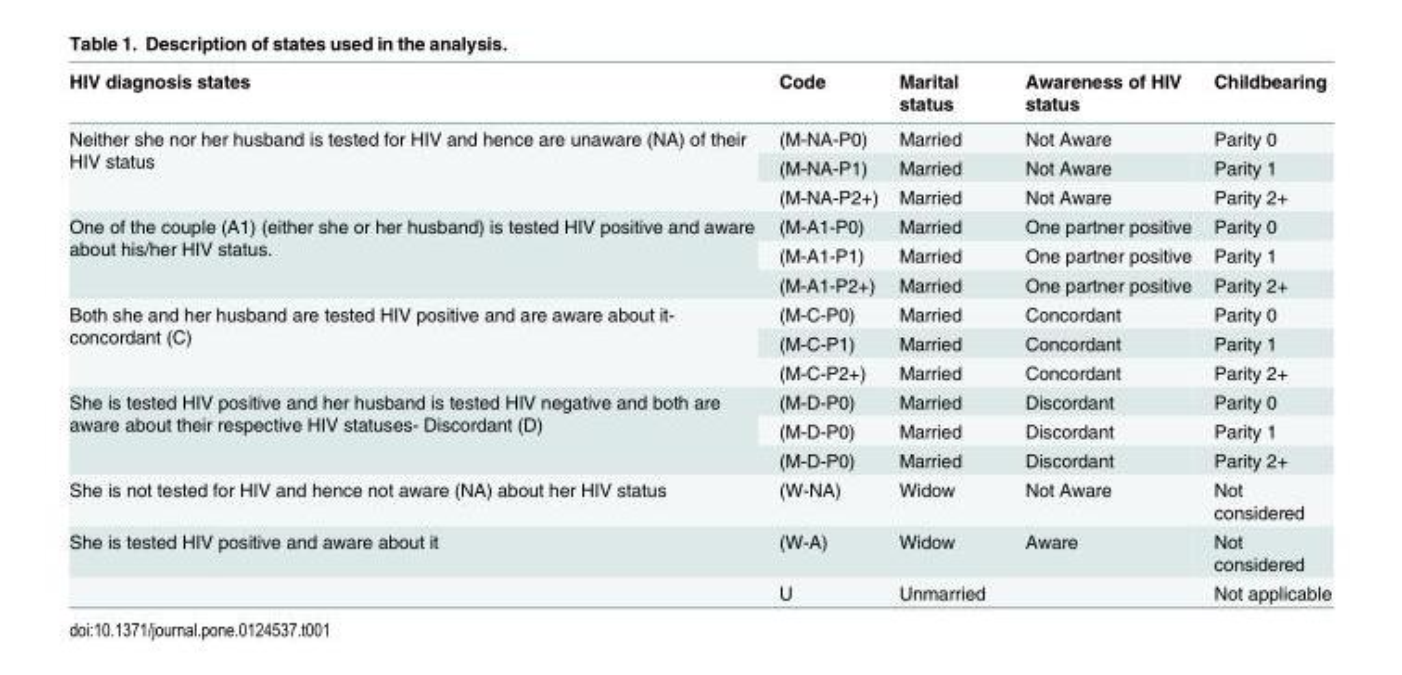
<table><thead><tr><td>HIV diagnosis states</td><td>Code</td><td>Marital status</td><td>Awareness of HIV status</td><td>Childbearing</td></tr></thead><tbody><tr><td rowspan="3">Neither she nor her husband is tested for HIV and hence are unaware (NA) of their HIV status</td><td>(M-NA-P0)</td><td>Married</td><td>Not Aware</td><td>Parity 0</td></tr><tr><td>(M-NA-P1)</td><td>Married</td><td>Not Aware</td><td>Parity 1</td></tr><tr><td>(M-NA-P2+)</td><td>Married</td><td>Not Aware</td><td>Parity 2+</td></tr><tr><td rowspan="3">One of the couple (A1) (either she or her husband) is tested HIV positive and aware about his/her HIV status.</td><td>(M-A1-P0)</td><td>Married</td><td>One partner positive</td><td>Parity 0</td></tr><tr><td>(M-A1-P1)</td><td>Married</td><td>One partner positive</td><td>Parity 1</td></tr><tr><td>(M-A1-P2+)</td><td>Married</td><td>One partner positive</td><td>Parity 2+</td></tr><tr><td rowspan="3">Both she and her husband are tested HIV positive and are aware about it- concordant (C)</td><td>(M-C-P0)</td><td>Married</td><td>Concordant</td><td>Parity 0</td></tr><tr><td>(M-C-P1)</td><td>Married</td><td>Concordant</td><td>Parity 1</td></tr><tr><td>(M-C-P2+)</td><td>Married</td><td>Concordant</td><td>Parity 2+</td></tr><tr><td rowspan="3">She is tested HIV positive and her husband is tested HIV negative and both are aware about their respective HIV statuses- Discordant (D)</td><td>(M-D-P0)</td><td>Married</td><td>Discordant</td><td>Parity 0</td></tr><tr><td>(M-D-P0)</td><td>Married</td><td>Discordant</td><td>Parity 1</td></tr><tr><td>(M-D-P0)</td><td>Married</td><td>Discordant</td><td>Parity 2+</td></tr><tr><td>She is not tested for HIV and hence not aware (NA) about her HIV status</td><td>(W-NA)</td><td>Widow</td><td>Not Aware</td><td>Not considered</td></tr><tr><td rowspan="2">She is tested HIV positive and aware about it</td><td>(W-A)</td><td>Widow</td><td>Aware</td><td>Not considered</td></tr><tr><td>U</td><td>Unmarried</td><td></td><td>Not applicable</td></tr></tbody></table>